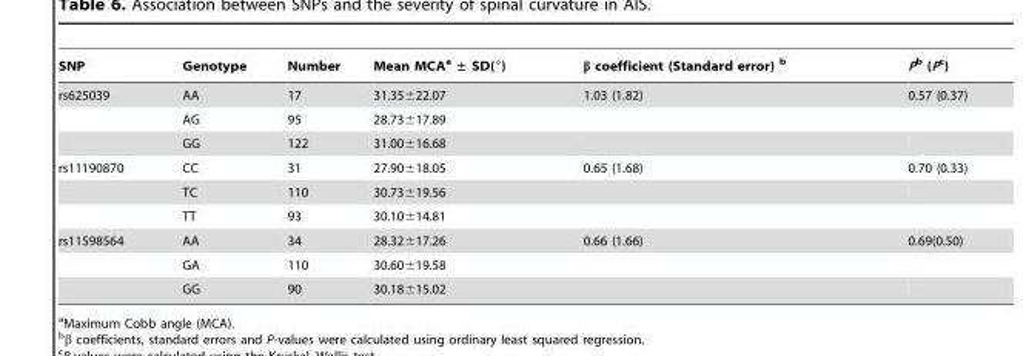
<table><thead><tr><td>SNP</td><td>Genotype</td><td>Number</td><td>Mean MCA<sup>a</sup> ± SD(°)</td><td>β coefficient (Standard error) b</td><td>Pb (Pc)</td></tr></thead><tbody><tr><td rowspan="3">rs625039</td><td>AA</td><td>17</td><td>31.35±22.07</td><td>1.03 (1.82)</td><td>0.57 (0.37)</td></tr><tr><td>AG</td><td>95</td><td>28.73±17.89</td><td></td><td></td></tr><tr><td>GG</td><td>122</td><td>31.00±16.68</td><td></td><td></td></tr><tr><td rowspan="3">rs11190870</td><td>CC</td><td>31</td><td>27.90±18.05</td><td>0.65 (1.68)</td><td>0.70 (0.33)</td></tr><tr><td>TC</td><td>110</td><td>30.73±19.56</td><td></td><td></td></tr><tr><td>TT</td><td>93</td><td>30.10±14.81</td><td></td><td></td></tr><tr><td rowspan="3">rs11598564</td><td>AA</td><td>34</td><td>28.32±17.26</td><td>0.66 (1.66)</td><td>0.69(0.50)</td></tr><tr><td>GA</td><td>110</td><td>30.60±19.58</td><td></td><td></td></tr><tr><td>GG</td><td>90</td><td>30.18±15.02</td><td></td><td></td></tr></tbody></table>